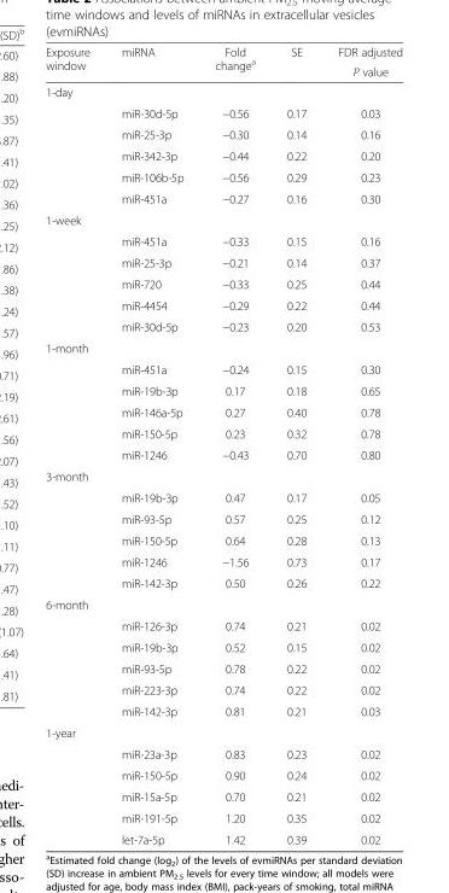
<table><thead><tr><td rowspan="2">Exposure window</td><td rowspan="2">miRNA</td><td rowspan="2">Fold change<sup>a</sup></td><td rowspan="2">SE</td><td rowspan="2">FDR adjusted P value</td></tr><tr></tr></thead><tbody><tr><td colspan="5">1-day</td></tr><tr><td></td><td>miR-30d-5p</td><td>−0.56</td><td>0.17</td><td>0.03</td></tr><tr><td></td><td>miR-25-3p</td><td>−0.30</td><td>0.14</td><td>0.16</td></tr><tr><td></td><td>miR-342-3p</td><td>−0.44</td><td>0.22</td><td>0.20</td></tr><tr><td></td><td>miR-106b-5p</td><td>−0.56</td><td>0.29</td><td>0.23</td></tr><tr><td></td><td>miR-451a</td><td>−0.27</td><td>0.16</td><td>0.30</td></tr><tr><td colspan="5">1-week</td></tr><tr><td></td><td>miR-451a</td><td>−0.33</td><td>0.15</td><td>0.16</td></tr><tr><td></td><td>miR-25-3p</td><td>−0.21</td><td>0.14</td><td>0.37</td></tr><tr><td></td><td>miR-720</td><td>−0.33</td><td>0.25</td><td>0.44</td></tr><tr><td></td><td>miR-4454</td><td>−0.29</td><td>0.22</td><td>0.44</td></tr><tr><td></td><td>miR-30d-5p</td><td>−0.23</td><td>0.20</td><td>0.53</td></tr><tr><td colspan="5">1-month</td></tr><tr><td></td><td>miR-451a</td><td>−0.24</td><td>0.15</td><td>0.30</td></tr><tr><td></td><td>miR-19b-3p</td><td>0.17</td><td>0.18</td><td>0.65</td></tr><tr><td></td><td>miR-146a-5p</td><td>0.27</td><td>0.40</td><td>0.78</td></tr><tr><td></td><td>miR-150-5p</td><td>0.23</td><td>0.32</td><td>0.78</td></tr><tr><td></td><td>miR-1246</td><td>−0.43</td><td>0.70</td><td>0.80</td></tr><tr><td colspan="5">3-month</td></tr><tr><td></td><td>miR-19b-3p</td><td>0.47</td><td>0.17</td><td>0.05</td></tr><tr><td></td><td>miR-93-5p</td><td>0.57</td><td>0.25</td><td>0.12</td></tr><tr><td></td><td>miR-150-5p</td><td>0.64</td><td>0.28</td><td>0.13</td></tr><tr><td></td><td>miR-1246</td><td>−1.56</td><td>0.73</td><td>0.17</td></tr><tr><td></td><td>miR-142-3p</td><td>0.50</td><td>0.26</td><td>0.22</td></tr><tr><td colspan="5">6-month</td></tr><tr><td></td><td>miR-126-3p</td><td>0.74</td><td>0.21</td><td>0.02</td></tr><tr><td></td><td>miR-19b-3p</td><td>0.52</td><td>0.15</td><td>0.02</td></tr><tr><td></td><td>miR-93-5p</td><td>0.78</td><td>0.22</td><td>0.02</td></tr><tr><td></td><td>miR-223-3p</td><td>0.74</td><td>0.22</td><td>0.02</td></tr><tr><td></td><td>miR-142-3p</td><td>0.81</td><td>0.21</td><td>0.03</td></tr><tr><td colspan="5">1-year</td></tr><tr><td></td><td>miR-23a-3p</td><td>0.83</td><td>0.23</td><td>0.02</td></tr><tr><td></td><td>miR-150-5p</td><td>0.90</td><td>0.24</td><td>0.02</td></tr><tr><td></td><td>miR-15a-5p</td><td>0.70</td><td>0.21</td><td>0.02</td></tr><tr><td></td><td>miR-191-5p</td><td>1.20</td><td>0.35</td><td>0.02</td></tr><tr><td></td><td>let-7a-5p</td><td>1.42</td><td>0.39</td><td>0.02</td></tr></tbody></table>